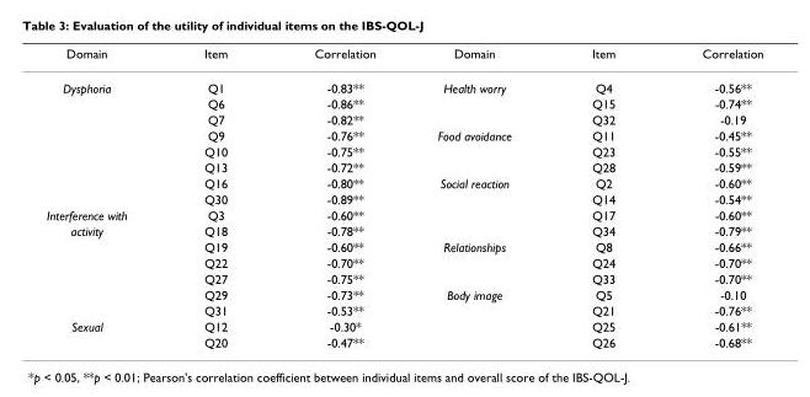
<table><thead><tr><td>Domain</td><td>Item</td><td>Correlation</td><td>Domain</td><td>Item</td><td>Correlation</td></tr></thead><tbody><tr><td rowspan="8">Dysphoria</td><td>Q1</td><td>-0.83**</td><td>Health worry</td><td>Q4</td><td>-0.56**</td></tr><tr><td>Q6</td><td>-0.86**</td><td></td><td>Q15</td><td>-0.74**</td></tr><tr><td>Q7</td><td>-0.82**</td><td></td><td>Q32</td><td>-0.19</td></tr><tr><td>Q9</td><td>-0.76**</td><td>Food avoidance</td><td>Q11</td><td>-0.45**</td></tr><tr><td>Q10</td><td>-0.75**</td><td></td><td>Q23</td><td>-0.55**</td></tr><tr><td>Q13</td><td>-0.72**</td><td></td><td>Q28</td><td>-0.59**</td></tr><tr><td>Q16</td><td>-0.80**</td><td>Social reaction</td><td>Q2</td><td>-0.60**</td></tr><tr><td>Q30</td><td>-0.89**</td><td></td><td>Q14</td><td>-0.54**</td></tr><tr><td>Interference with</td><td>Q3</td><td>-0.60**</td><td></td><td>Q17</td><td>-0.60**</td></tr><tr><td rowspan="6">activity</td><td>Q18</td><td>-0.78**</td><td></td><td>Q34</td><td>-0.79**</td></tr><tr><td>Q19</td><td>-0.60**</td><td>Relationships</td><td>Q8</td><td>-0.66**</td></tr><tr><td>Q22</td><td>-0.70**</td><td></td><td>Q24</td><td>-0.70**</td></tr><tr><td>Q27</td><td>-0.75**</td><td></td><td>Q33</td><td>-0.70**</td></tr><tr><td>Q29</td><td>-0.73**</td><td>Body image</td><td>Q5</td><td>-0.10</td></tr><tr><td>Q31</td><td>-0.53**</td><td></td><td>Q21</td><td>-0.76**</td></tr><tr><td rowspan="2">Sexual</td><td>Q12</td><td>-0.30*</td><td></td><td>Q25</td><td>-0.61**</td></tr><tr><td>Q20</td><td>-0.47**</td><td></td><td>Q26</td><td>-0.68**</td></tr></tbody></table>